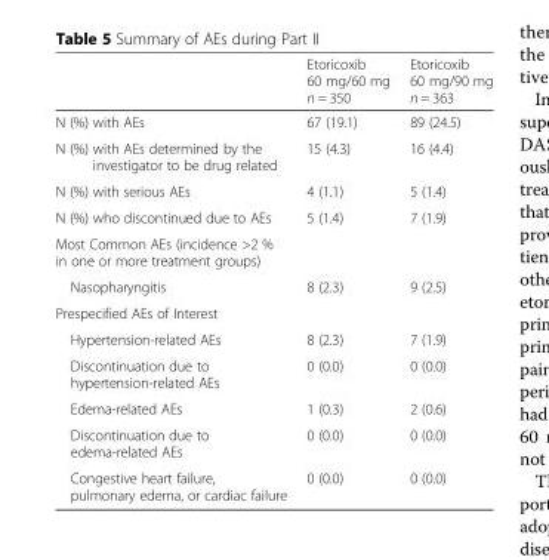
<table><thead><tr><td></td><td>Etoricoxib 60 mg/60 mg n = 350</td><td>Etoricoxib 60 mg/90 mg n = 363</td></tr></thead><tbody><tr><td>N (%) with AEs</td><td>67 (19.1)</td><td>89 (24.5)</td></tr><tr><td>N (%) with AEs determined by the investigator to be drug related</td><td>15 (4.3)</td><td>16 (4.4)</td></tr><tr><td>N (%) with serious AEs</td><td>4 (1.1)</td><td>5 (1.4)</td></tr><tr><td>N (%) who discontinued due to AEs</td><td>5 (1.4)</td><td>7 (1.9)</td></tr><tr><td colspan="3">Most Common AEs (incidence &gt;2 % in one or more treatment groups)</td></tr><tr><td>Nasopharyngitis</td><td>8 (2.3)</td><td>9 (2.5)</td></tr><tr><td colspan="3">Prespecified AEs of Interest</td></tr><tr><td>Hypertension-related AEs</td><td>8 (2.3)</td><td>7 (1.9)</td></tr><tr><td>Discontinuation due to hypertension-related AEs</td><td>0 (0.0)</td><td>0 (0.0)</td></tr><tr><td>Edema-related AEs</td><td>1 (0.3)</td><td>2 (0.6)</td></tr><tr><td>Discontinuation due to edema-related AEs</td><td>0 (0.0)</td><td>0 (0.0)</td></tr><tr><td>Congestive heart failure, pulmonary edema, or cardiac failure</td><td>0 (0.0)</td><td>0 (0.0)</td></tr></tbody></table>